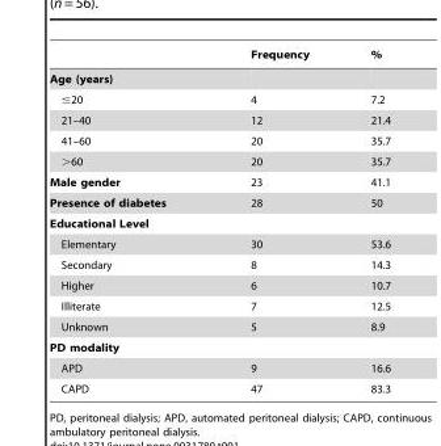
<table><thead><tr><td></td><td>Frequency</td><td>%</td></tr></thead><tbody><tr><td colspan="3">Age (years)</td></tr><tr><td>≤20</td><td>4</td><td>7.2</td></tr><tr><td>21–40</td><td>12</td><td>21.4</td></tr><tr><td>41–60</td><td>20</td><td>35.7</td></tr><tr><td>&gt;60</td><td>20</td><td>35.7</td></tr><tr><td>Male gender</td><td>23</td><td>41.1</td></tr><tr><td>Presence of diabetes</td><td>28</td><td>50</td></tr><tr><td colspan="3">Educational Level</td></tr><tr><td>Elementary</td><td>30</td><td>53.6</td></tr><tr><td>Secondary</td><td>8</td><td>14.3</td></tr><tr><td>Higher</td><td>6</td><td>10.7</td></tr><tr><td>Illiterate</td><td>7</td><td>12.5</td></tr><tr><td>Unknown</td><td>5</td><td>8.9</td></tr><tr><td colspan="3">PD modality</td></tr><tr><td>APD</td><td>9</td><td>16.6</td></tr><tr><td>CAPD</td><td>47</td><td>83.3</td></tr></tbody></table>